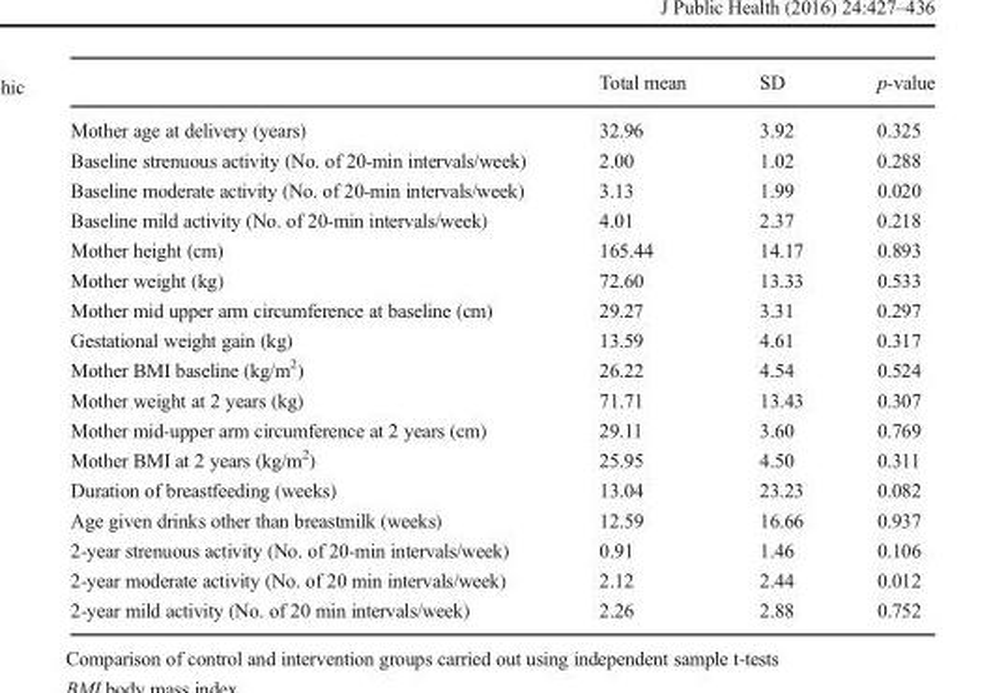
<table><thead><tr><td></td><td>Total mean</td><td>SD</td><td>p-value</td></tr></thead><tbody><tr><td>Mother age at delivery (years)</td><td>32.96</td><td>3.92</td><td>0.325</td></tr><tr><td>Baseline strenuous activity (No. of 20-min intervals/week)</td><td>2.00</td><td>1.02</td><td>0.288</td></tr><tr><td>Baseline moderate activity (No. of 20-min intervals/week)</td><td>3.13</td><td>1.99</td><td>0.020</td></tr><tr><td>Baseline mild activity (No. of 20-min intervals/week)</td><td>4.01</td><td>2.37</td><td>0.218</td></tr><tr><td>Mother height (cm)</td><td>165.44</td><td>14.17</td><td>0.893</td></tr><tr><td>Mother weight (kg)</td><td>72.60</td><td>13.33</td><td>0.533</td></tr><tr><td>Mother mid upper arm circumference at baseline (cm)</td><td>29.27</td><td>3.31</td><td>0.297</td></tr><tr><td>Gestational weight gain (kg)</td><td>13.59</td><td>4.61</td><td>0.317</td></tr><tr><td>Mother BMI baseline (kg/m<sup>2</sup>)</td><td>26.22</td><td>4.54</td><td>0.524</td></tr><tr><td>Mother weight at 2 years (kg)</td><td>71.71</td><td>13.43</td><td>0.307</td></tr><tr><td>Mother mid-upper arm circumference at 2 years (cm)</td><td>29.11</td><td>3.60</td><td>0.769</td></tr><tr><td>Mother BMI at 2 years (kg/m<sup>2</sup>)</td><td>25.95</td><td>4.50</td><td>0.311</td></tr><tr><td>Duration of breastfeeding (weeks)</td><td>13.04</td><td>23.23</td><td>0.082</td></tr><tr><td>Age given drinks other than breastmilk (weeks)</td><td>12.59</td><td>16.66</td><td>0.937</td></tr><tr><td>2-year strenuous activity (No. of 20-min intervals/week)</td><td>0.91</td><td>1.46</td><td>0.106</td></tr><tr><td>2-year moderate activity (No. of 20 min intervals/week)</td><td>2.12</td><td>2.44</td><td>0.012</td></tr><tr><td>2-year mild activity (No. of 20 min intervals/week)</td><td>2.26</td><td>2.88</td><td>0.752</td></tr></tbody></table>